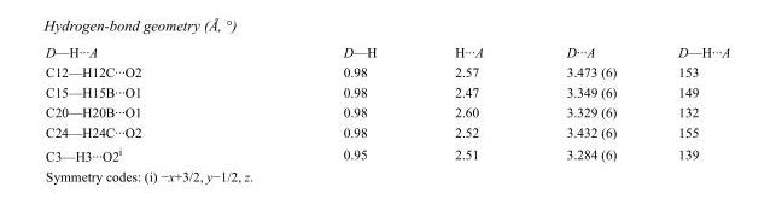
<table><tbody><tr><td>D—H···A</td><td>D—H</td><td>H···A</td><td>D···A</td><td>D—H···A</td></tr><tr><td>C12—H12C···O2</td><td>0.98</td><td>2.57</td><td>3.473 (6)</td><td>153</td></tr><tr><td>C15—H15B···O1</td><td>0.98</td><td>2.47</td><td>3.349 (6)</td><td>149</td></tr><tr><td>C20—H20B···O1</td><td>0.98</td><td>2.60</td><td>3.329 (6)</td><td>132</td></tr><tr><td>C24—H24C···O2</td><td>0.98</td><td>2.52</td><td>3.432 (6)</td><td>155</td></tr><tr><td>C3—H3···O2<sup>i</sup></td><td>0.95</td><td>2.51</td><td>3.284 (6)</td><td>139</td></tr></tbody></table>